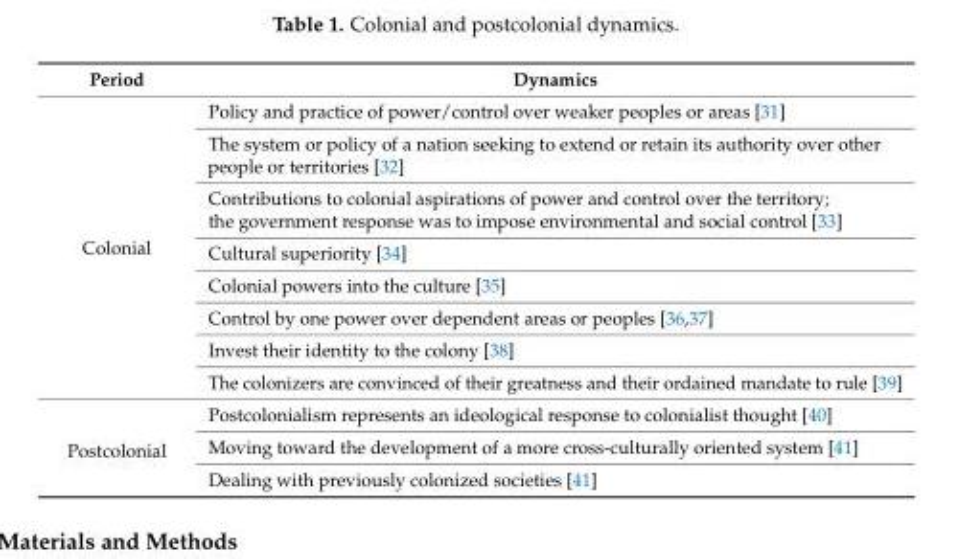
<table><thead><tr><td>Period</td><td>Dynamics</td></tr></thead><tbody><tr><td rowspan="8">Colonial</td><td>Policy and practice of power/control over weaker peoples or areas [31]</td></tr><tr><td>The system or policy of a nation seeking to extend or retain its authority over other people or territories [32]</td></tr><tr><td>Contributions to colonial aspirations of power and control over the territory; the government response was to impose environmental and social control [33]</td></tr><tr><td>Cultural superiority [34]</td></tr><tr><td>Colonial powers into the culture [35]</td></tr><tr><td>Control by one power over dependent areas or peoples [36,37]</td></tr><tr><td>Invest their identity to the colony [38]</td></tr><tr><td>The colonizers are convinced of their greatness and their ordained mandate to rule [39]</td></tr><tr><td rowspan="3">Postcolonial</td><td>Postcolonialism represents an ideological response to colonialist thought [40]</td></tr><tr><td>Moving toward the development of a more cross-culturally oriented system [41]</td></tr><tr><td>Dealing with previously colonized societies [41]</td></tr></tbody></table>